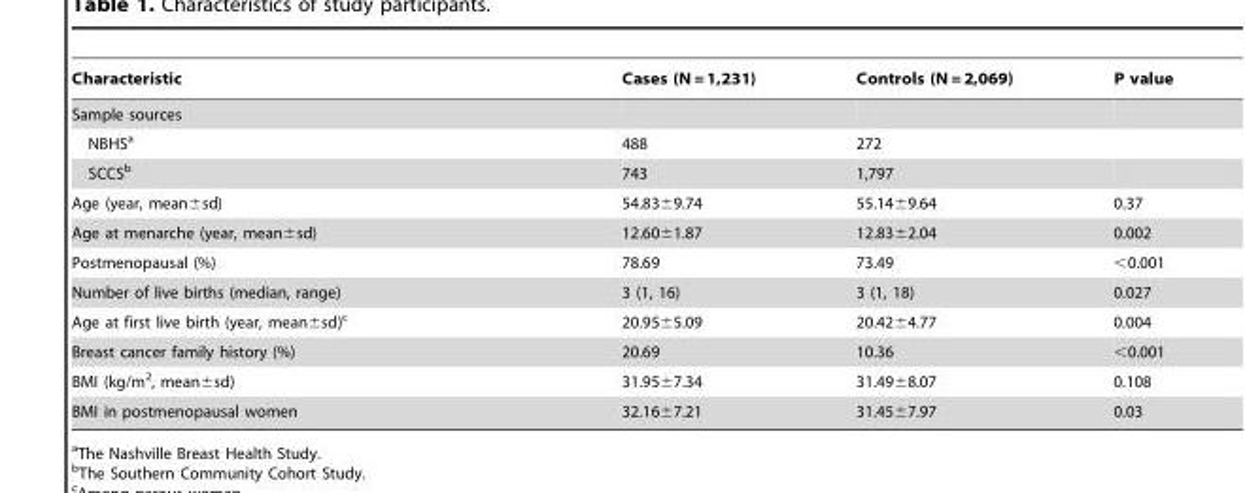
<table><thead><tr><td>Characteristic</td><td>Cases (N = 1,231)</td><td>Controls (N = 2,069)</td><td>P value</td></tr></thead><tbody><tr><td colspan="4">Sample sources</td></tr><tr><td>NBHS<sup>a</sup></td><td>488</td><td>272</td><td></td></tr><tr><td>SCCS<sup>b</sup></td><td>743</td><td>1,797</td><td></td></tr><tr><td>Age (year, mean±sd)</td><td>54.83±9.74</td><td>55.14±9.64</td><td>0.37</td></tr><tr><td>Age at menarche (year, mean±sd)</td><td>12.60±1.87</td><td>12.83±2.04</td><td>0.002</td></tr><tr><td>Postmenopausal (%)</td><td>78.69</td><td>73.49</td><td>&lt;0.001</td></tr><tr><td>Number of live births (median, range)</td><td>3 (1, 16)</td><td>3 (1, 18)</td><td>0.027</td></tr><tr><td>Age at first live birth (year, mean±sd)<sup>c</sup></td><td>20.95±5.09</td><td>20.42±4.77</td><td>0.004</td></tr><tr><td>Breast cancer family history (%)</td><td>20.69</td><td>10.36</td><td>&lt;0.001</td></tr><tr><td>BMI (kg/m<sup>2</sup>, mean±sd)</td><td>31.95±7.34</td><td>31.49±8.07</td><td>0.108</td></tr><tr><td>BMI in postmenopausal women</td><td>32.16±7.21</td><td>31.45±7.97</td><td>0.03</td></tr></tbody></table>